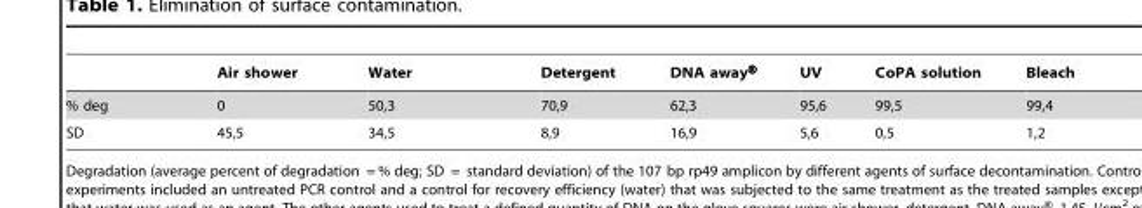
<table><thead><tr><td></td><td>Air shower</td><td>Water</td><td>Detergent</td><td>DNA away®</td><td>UV</td><td>CoPA solution</td><td>Bleach</td></tr></thead><tbody><tr><td>% deg</td><td>0</td><td>50,3</td><td>70,9</td><td>62,3</td><td>95,6</td><td>99,5</td><td>99,4</td></tr><tr><td>SD</td><td>45,5</td><td>34,5</td><td>8,9</td><td>16,9</td><td>5,6</td><td>0,5</td><td>1,2</td></tr></tbody></table>